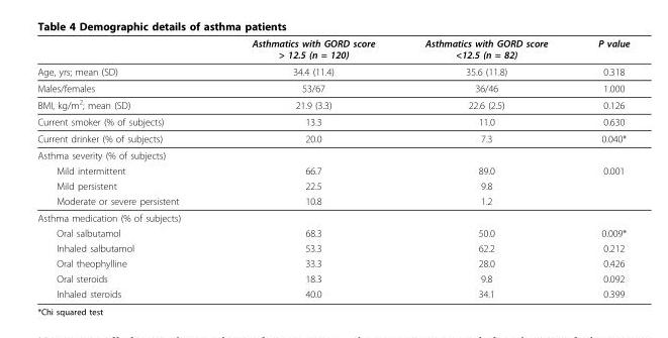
<table><thead><tr><td></td><td>Asthmatics with GORD score &gt; 12.5 (n = 120)</td><td>Asthmatics with GORD score &lt;12.5 (n = 82)</td><td>P value</td></tr></thead><tbody><tr><td>Age, yrs; mean (SD)</td><td>34.4 (11.4)</td><td>35.6 (11.8)</td><td>0.318</td></tr><tr><td>Males/females</td><td>53/67</td><td>36/46</td><td>1.000</td></tr><tr><td>BMI, kg/m<sup>2</sup>; mean (SD)</td><td>21.9 (3.3)</td><td>22.6 (2.5)</td><td>0.126</td></tr><tr><td>Current smoker (% of subjects)</td><td>13.3</td><td>11.0</td><td>0.630</td></tr><tr><td>Current drinker (% of subjects)</td><td>20.0</td><td>7.3</td><td>0.040*</td></tr><tr><td colspan="4">Asthma severity (% of subjects)</td></tr><tr><td>Mild intermittent</td><td>66.7</td><td>89.0</td><td>0.001</td></tr><tr><td>Mild persistent</td><td>22.5</td><td>9.8</td><td></td></tr><tr><td>Moderate or severe persistent</td><td>10.8</td><td>1.2</td><td></td></tr><tr><td colspan="4">Asthma medication (% of subjects)</td></tr><tr><td>Oral salbutamol</td><td>68.3</td><td>50.0</td><td>0.009*</td></tr><tr><td>Inhaled salbutamol</td><td>53.3</td><td>62.2</td><td>0.212</td></tr><tr><td>Oral theophylline</td><td>33.3</td><td>28.0</td><td>0.426</td></tr><tr><td>Oral steroids</td><td>18.3</td><td>9.8</td><td>0.092</td></tr><tr><td>Inhaled steroids</td><td>40.0</td><td>34.1</td><td>0.399</td></tr></tbody></table>